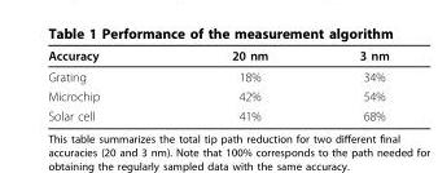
<table><thead><tr><td>Accuracy</td><td>20 nm</td><td>3 nm</td></tr></thead><tbody><tr><td>Grating</td><td>18%</td><td>34%</td></tr><tr><td>Microchip</td><td>42%</td><td>54%</td></tr><tr><td>Solar cell</td><td>41%</td><td>68%</td></tr></tbody></table>